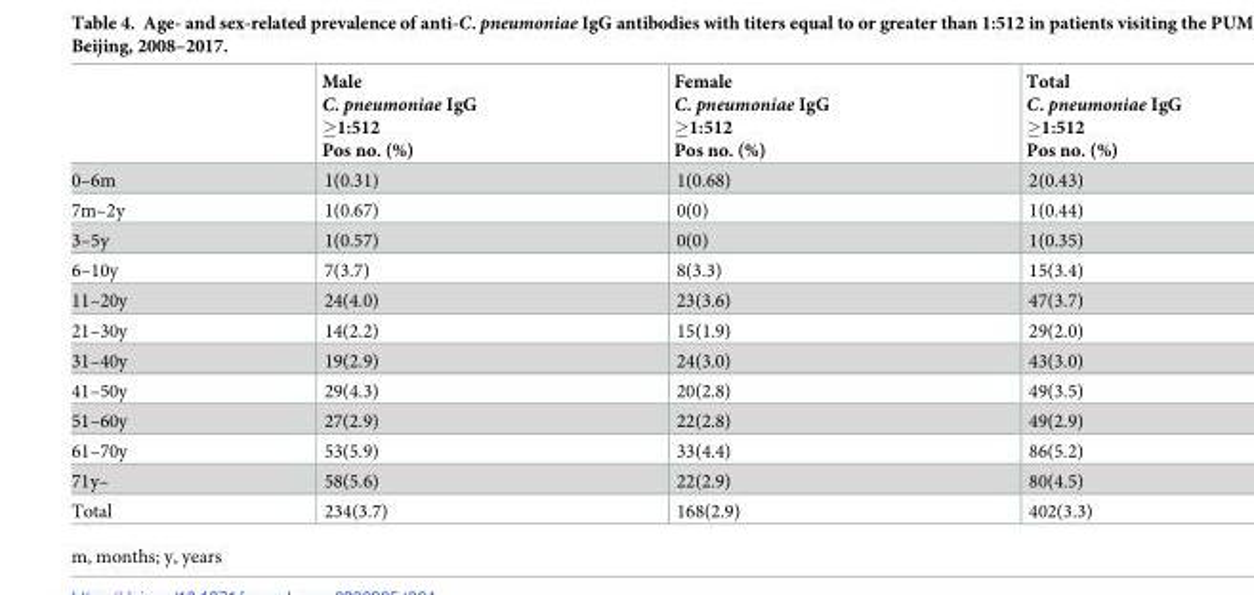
<table><thead><tr><td></td><td>Male C. pneumoniae IgG ≥1:512 Pos no. (%)</td><td>Female C. pneumoniae IgG ≥1:512 Pos no. (%)</td><td>Total C. pneumoniae IgG ≥1:512 Pos no. (%)</td></tr></thead><tbody><tr><td>0–6m</td><td>1(0.31)</td><td>1(0.68)</td><td>2(0.43)</td></tr><tr><td>7m–2y</td><td>1(0.67)</td><td>0(0)</td><td>1(0.44)</td></tr><tr><td>3–5y</td><td>1(0.57)</td><td>0(0)</td><td>1(0.35)</td></tr><tr><td>6–10y</td><td>7(3.7)</td><td>8(3.3)</td><td>15(3.4)</td></tr><tr><td>11–20y</td><td>24(4.0)</td><td>23(3.6)</td><td>47(3.7)</td></tr><tr><td>21–30y</td><td>14(2.2)</td><td>15(1.9)</td><td>29(2.0)</td></tr><tr><td>31–40y</td><td>19(2.9)</td><td>24(3.0)</td><td>43(3.0)</td></tr><tr><td>41–50y</td><td>29(4.3)</td><td>20(2.8)</td><td>49(3.5)</td></tr><tr><td>51–60y</td><td>27(2.9)</td><td>22(2.8)</td><td>49(2.9)</td></tr><tr><td>61–70y</td><td>53(5.9)</td><td>33(4.4)</td><td>86(5.2)</td></tr><tr><td>71y–</td><td>58(5.6)</td><td>22(2.9)</td><td>80(4.5)</td></tr><tr><td>Total</td><td>234(3.7)</td><td>168(2.9)</td><td>402(3.3)</td></tr></tbody></table>